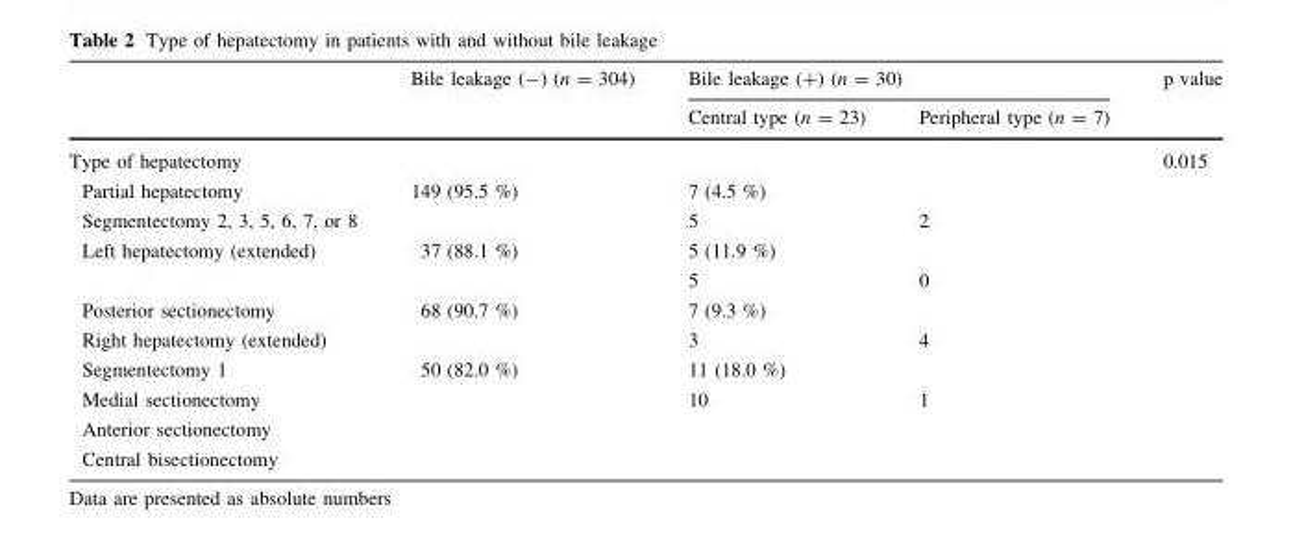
<table><thead><tr><td rowspan="2"></td><td rowspan="2">Bile leakage (-) (n = 304)</td><td colspan="2">Bile leakage (+) (n = 30)</td><td rowspan="2">p value</td></tr><tr><td>Central type (n = 23)</td><td>Peripheral type (n = 7)</td></tr></thead><tbody><tr><td colspan="4">Type of hepatectomy</td><td rowspan="11">0.015</td></tr><tr><td>Partial hepatectomy</td><td>149 (95.5 %)</td><td>7 (4.5 %)</td><td></td></tr><tr><td>Segmentectomy 2, 3, 5, 6, 7, or 8</td><td></td><td>5</td><td>2</td></tr><tr><td rowspan="2">Left hepatectomy (extended)</td><td>37 (88.1 %)</td><td>5 (11.9 %)</td><td></td></tr><tr><td></td><td>5</td><td>0</td></tr><tr><td>Posterior sectionectomy</td><td>68 (90.7 %)</td><td>7 (9.3 %)</td><td></td></tr><tr><td>Right hepatectomy (extended)</td><td></td><td>3</td><td>4</td></tr><tr><td>Segmentectomy 1</td><td>50 (82.0 %)</td><td>11 (18.0 %)</td><td></td></tr><tr><td>Medial sectionectomy</td><td></td><td>10</td><td>1</td></tr><tr><td colspan="4">Anterior sectionectomy</td></tr><tr><td>Central bisectionectomy</td><td></td><td></td><td></td></tr></tbody></table>